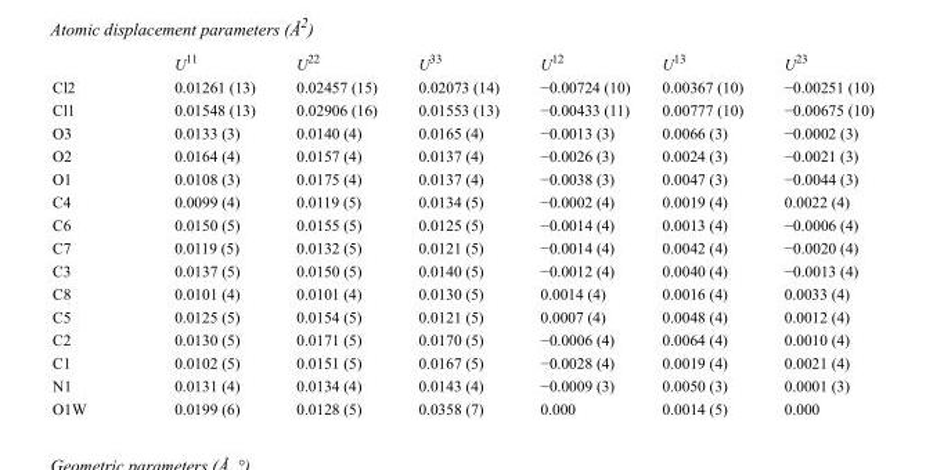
<table><thead><tr><td></td><td>U<sup>11</sup></td><td>U<sup>22</sup></td><td>U<sup>33</sup></td><td>U<sup>12</sup></td><td>U<sup>13</sup></td><td>U<sup>23</sup></td></tr></thead><tbody><tr><td>Cl2</td><td>0.01261 (13)</td><td>0.02457 (15)</td><td>0.02073 (14)</td><td>−0.00724 (10)</td><td>0.00367 (10)</td><td>−0.00251 (10)</td></tr><tr><td>Cl1</td><td>0.01548 (13)</td><td>0.02906 (16)</td><td>0.01553 (13)</td><td>−0.00433 (11)</td><td>0.00777 (10)</td><td>−0.00675 (10)</td></tr><tr><td>O3</td><td>0.0133 (3)</td><td>0.0140 (4)</td><td>0.0165 (4)</td><td>−0.0013 (3)</td><td>0.0066 (3)</td><td>−0.0002 (3)</td></tr><tr><td>O2</td><td>0.0164 (4)</td><td>0.0157 (4)</td><td>0.0137 (4)</td><td>−0.0026 (3)</td><td>0.0024 (3)</td><td>−0.0021 (3)</td></tr><tr><td>O1</td><td>0.0108 (3)</td><td>0.0175 (4)</td><td>0.0137 (4)</td><td>−0.0038 (3)</td><td>0.0047 (3)</td><td>−0.0044 (3)</td></tr><tr><td>C4</td><td>0.0099 (4)</td><td>0.0119 (5)</td><td>0.0134 (5)</td><td>−0.0002 (4)</td><td>0.0019 (4)</td><td>0.0022 (4)</td></tr><tr><td>C6</td><td>0.0150 (5)</td><td>0.0155 (5)</td><td>0.0125 (5)</td><td>−0.0014 (4)</td><td>0.0013 (4)</td><td>−0.0006 (4)</td></tr><tr><td>C7</td><td>0.0119 (5)</td><td>0.0132 (5)</td><td>0.0121 (5)</td><td>−0.0014 (4)</td><td>0.0042 (4)</td><td>−0.0020 (4)</td></tr><tr><td>C3</td><td>0.0137 (5)</td><td>0.0150 (5)</td><td>0.0140 (5)</td><td>−0.0012 (4)</td><td>0.0040 (4)</td><td>−0.0013 (4)</td></tr><tr><td>C8</td><td>0.0101 (4)</td><td>0.0101 (4)</td><td>0.0130 (5)</td><td>0.0014 (4)</td><td>0.0016 (4)</td><td>0.0033 (4)</td></tr><tr><td>C5</td><td>0.0125 (5)</td><td>0.0154 (5)</td><td>0.0121 (5)</td><td>0.0007 (4)</td><td>0.0048 (4)</td><td>0.0012 (4)</td></tr><tr><td>C2</td><td>0.0130 (5)</td><td>0.0171 (5)</td><td>0.0170 (5)</td><td>−0.0006 (4)</td><td>0.0064 (4)</td><td>0.0010 (4)</td></tr><tr><td>C1</td><td>0.0102 (5)</td><td>0.0151 (5)</td><td>0.0167 (5)</td><td>−0.0028 (4)</td><td>0.0019 (4)</td><td>0.0021 (4)</td></tr><tr><td>N1</td><td>0.0131 (4)</td><td>0.0134 (4)</td><td>0.0143 (4)</td><td>−0.0009 (3)</td><td>0.0050 (3)</td><td>0.0001 (3)</td></tr><tr><td>O1W</td><td>0.0199 (6)</td><td>0.0128 (5)</td><td>0.0358 (7)</td><td>0.000</td><td>0.0014 (5)</td><td>0.000</td></tr></tbody></table>